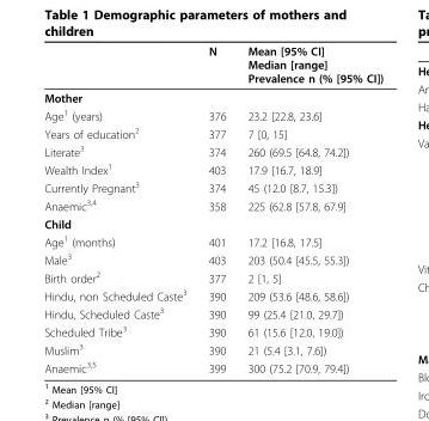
<table><thead><tr><td></td><td>N</td><td>Mean [95% CI] Median [range] Prevalence n (% [95% CI])</td></tr></thead><tbody><tr><td colspan="3">Mother</td></tr><tr><td>Age<sup>1</sup> (years)</td><td>376</td><td>23.2 [22.8, 23.6]</td></tr><tr><td>Years of education<sup>2</sup></td><td>377</td><td>7 [0, 15]</td></tr><tr><td>Literate<sup>3</sup></td><td>374</td><td>260 (69.5 [64.8, 74.2])</td></tr><tr><td>Wealth Index<sup>1</sup></td><td>403</td><td>17.9 [16.7, 18.9]</td></tr><tr><td>Currently Pregnant<sup>3</sup></td><td>374</td><td>45 (12.0 [8.7, 15.3])</td></tr><tr><td>Anaemic<sup>3,4</sup></td><td>358</td><td>225 (62.8 [57.8, 67.9]</td></tr><tr><td colspan="3">Child</td></tr><tr><td>Age<sup>1</sup> (months)</td><td>401</td><td>17.2 [16.8, 17.5]</td></tr><tr><td>Male<sup>3</sup></td><td>403</td><td>203 (50.4 [45.5, 55.3])</td></tr><tr><td>Birth order<sup>2</sup></td><td>377</td><td>2 [1, 5]</td></tr><tr><td>Hindu, non Scheduled Caste<sup>3</sup></td><td>390</td><td>209 (53.6 [48.6, 58.6])</td></tr><tr><td>Hindu, Scheduled Caste<sup>3</sup></td><td>390</td><td>99 (25.4 [21.0, 29.7])</td></tr><tr><td>Scheduled Tribe<sup>3</sup></td><td>390</td><td>61 (15.6 [12.0, 19.0])</td></tr><tr><td>Muslim<sup>3</sup></td><td>390</td><td>21 (5.4 [3.1, 7.6])</td></tr><tr><td>Anaemic<sup>3,5</sup></td><td>399</td><td>300 (75.2 [70.9, 79.4])</td></tr></tbody></table>